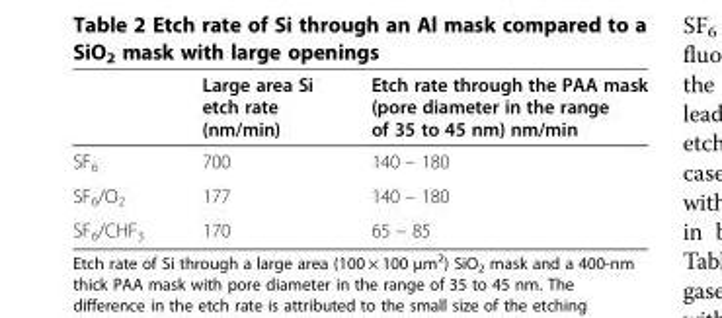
<table><thead><tr><td></td><td>Large area Si etch rate (nm/min)</td><td>Etch rate through the PAA mask (pore diameter in the range of 35 to 45 nm) nm/min</td></tr></thead><tbody><tr><td>SF<sub>6</sub></td><td>700</td><td>140 – 180</td></tr><tr><td>SF<sub>6</sub>/O<sub>2</sub></td><td>177</td><td>140 – 180</td></tr><tr><td>SF<sub>6</sub>/CHF<sub>3</sub></td><td>170</td><td>65 – 85</td></tr></tbody></table>